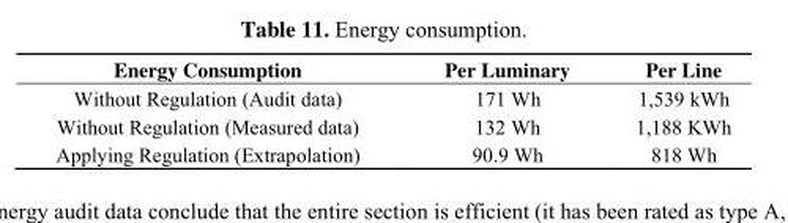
<table><thead><tr><td>Energy Consumption</td><td>Per Luminary</td><td>Per Line</td></tr></thead><tbody><tr><td>Without Regulation (Audit data)</td><td>171 Wh</td><td>1,539 kWh</td></tr><tr><td>Without Regulation (Measured data)</td><td>132 Wh</td><td>1,188 KWh</td></tr><tr><td>Applying Regulation (Extrapolation)</td><td>90.9 Wh</td><td>818 Wh</td></tr></tbody></table>